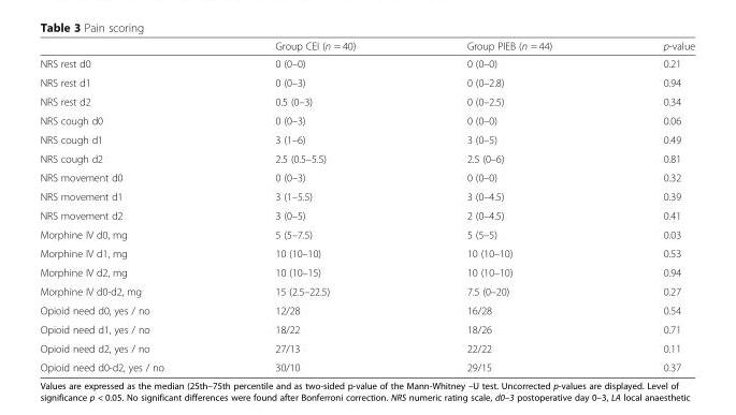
<table><thead><tr><td></td><td>Group CEI (n = 40)</td><td>Group PIEB (n = 44)</td><td>p-value</td></tr></thead><tbody><tr><td>NRS rest d0</td><td>0 (0–0)</td><td>0 (0–0)</td><td>0.21</td></tr><tr><td>NRS rest d1</td><td>0 (0–3)</td><td>0 (0–2.8)</td><td>0.94</td></tr><tr><td>NRS rest d2</td><td>0.5 (0–3)</td><td>0 (0–2.5)</td><td>0.34</td></tr><tr><td>NRS cough d0</td><td>0 (0–3)</td><td>0 (0–0)</td><td>0.06</td></tr><tr><td>NRS cough d1</td><td>3 (1–6)</td><td>3 (0–5)</td><td>0.49</td></tr><tr><td>NRS cough d2</td><td>2.5 (0.5–5.5)</td><td>2.5 (0–6)</td><td>0.81</td></tr><tr><td>NRS movement d0</td><td>0 (0–3)</td><td>0 (0–0)</td><td>0.32</td></tr><tr><td>NRS movement d1</td><td>3 (1–5.5)</td><td>3 (0–4.5)</td><td>0.39</td></tr><tr><td>NRS movement d2</td><td>3 (0–5)</td><td>2 (0–4.5)</td><td>0.41</td></tr><tr><td>Morphine IV d0, mg</td><td>5 (5–7.5)</td><td>5 (5–5)</td><td>0.03</td></tr><tr><td>Morphine IV d1, mg</td><td>10 (10–10)</td><td>10 (10–10)</td><td>0.53</td></tr><tr><td>Morphine IV d2, mg</td><td>10 (10–15)</td><td>10 (10–10)</td><td>0.94</td></tr><tr><td>Morphine IV d0-d2, mg</td><td>15 (2.5–22.5)</td><td>7.5 (0–20)</td><td>0.27</td></tr><tr><td>Opioid need d0, yes / no</td><td>12/28</td><td>16/28</td><td>0.54</td></tr><tr><td>Opioid need d1, yes / no</td><td>18/22</td><td>18/26</td><td>0.71</td></tr><tr><td>Opioid need d2, yes / no</td><td>27/13</td><td>22/22</td><td>0.11</td></tr><tr><td>Opioid need d0-d2, yes / no</td><td>30/10</td><td>29/15</td><td>0.37</td></tr></tbody></table>